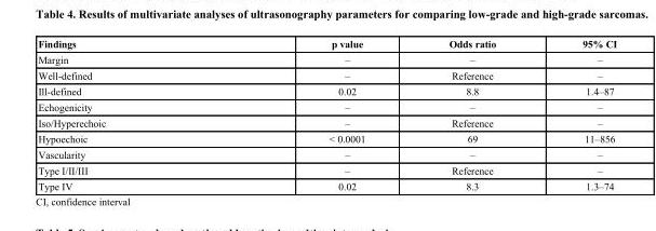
<table><thead><tr><td>Findings</td><td>p value</td><td>Odds ratio</td><td>95% CI</td></tr></thead><tbody><tr><td>Margin</td><td>–</td><td>–</td><td>–</td></tr><tr><td>Well-defined</td><td>–</td><td>Reference</td><td>–</td></tr><tr><td>Ill-defined</td><td>0.02</td><td>8.8</td><td>1.4–87</td></tr><tr><td>Echogenicity</td><td>–</td><td>–</td><td>–</td></tr><tr><td>Iso/Hyperechoic</td><td>–</td><td>Reference</td><td>–</td></tr><tr><td>Hypoechoic</td><td>&lt; 0.0001</td><td>69</td><td>11–856</td></tr><tr><td>Vascularity</td><td>–</td><td>–</td><td>–</td></tr><tr><td>Type I/II/III</td><td>–</td><td>Reference</td><td>–</td></tr><tr><td>Type IV</td><td>0.02</td><td>8.3</td><td>1.3–74</td></tr></tbody></table>